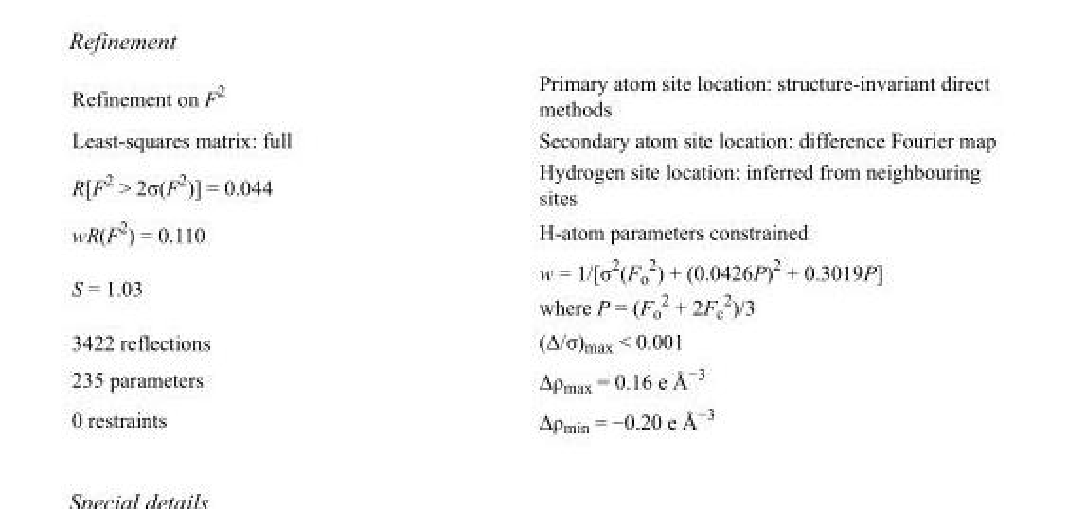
<table><tbody><tr><td>Refinement on F<sup>2</sup></td><td>Primary atom site location: structure-invariant direct methods</td></tr><tr><td>Least-squares matrix: full</td><td>Secondary atom site location: difference Fourier map</td></tr><tr><td>R[F<sup>2</sup> &gt; 2σ(F<sup>2</sup>)] = 0.044</td><td>Hydrogen site location: inferred from neighbouring sites</td></tr><tr><td>wR(F<sup>2</sup>) = 0.110</td><td>H-atom parameters constrained</td></tr><tr><td>S = 1.03</td><td>w = 1/[σ<sup>2</sup>(F<sub>o</sub> <sup>2</sup>) + (0.0426P)<sup>2</sup> + 0.3019P] where P = (F<sub>o</sub> <sup>2</sup> + 2F<sub>c</sub> <sup>2</sup>)/3</td></tr><tr><td>3422 reflections</td><td>(Δ/σ)<sub>max</sub> &lt; 0.001</td></tr><tr><td>235 parameters</td><td>Δρ<sub>max</sub> = 0.16 e Å<sup>−3</sup></td></tr><tr><td>0 restraints</td><td>Δρ<sub>min</sub> = −0.20 e Å<sup>−3</sup></td></tr></tbody></table>